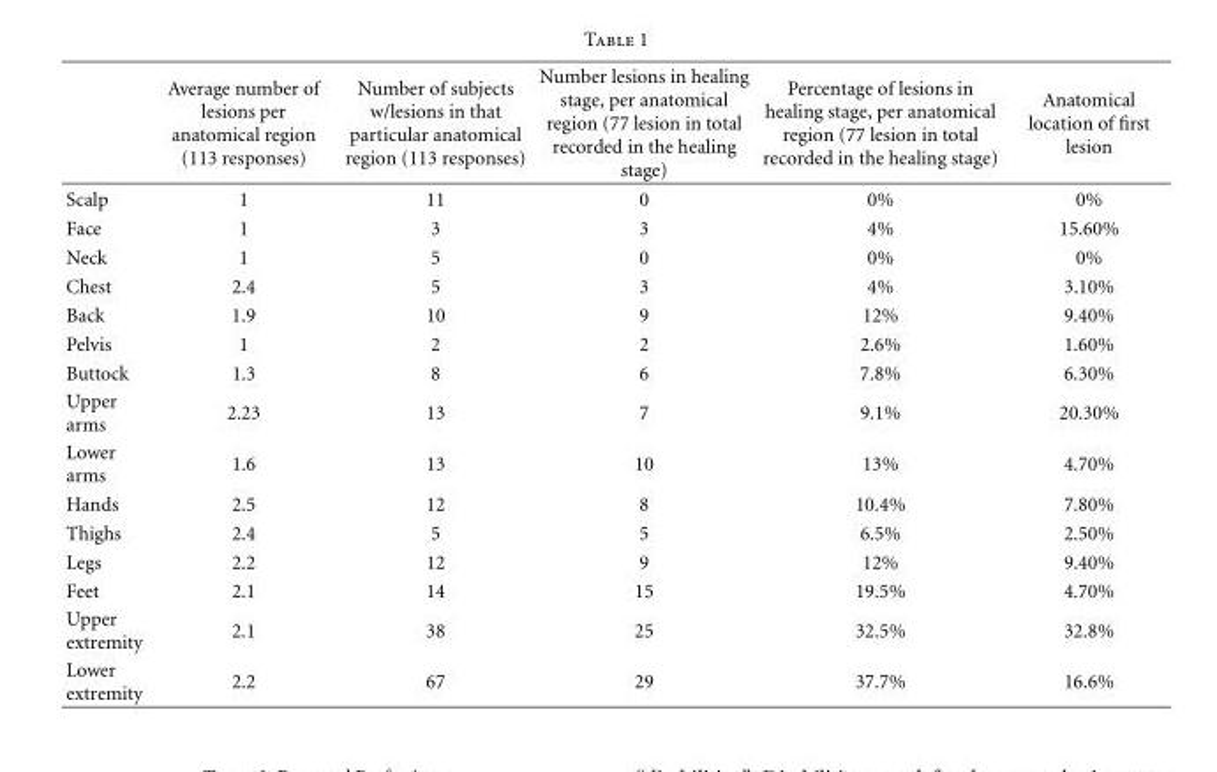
<table><thead><tr><td></td><td>Average number of lesions per anatomical region (113 responses)</td><td>Number of subjects w/lesions in that particular anatomical region (113 responses)</td><td>Number lesions in healing stage, per anatomical region (77 lesion in total recorded in the healing stage)</td><td>Percentage of lesions in healing stage, per anatomical region (77 lesion in total recorded in the healing stage)</td><td>Anatomical location of first lesion</td></tr></thead><tbody><tr><td>Scalp</td><td>1</td><td>11</td><td>0</td><td>0%</td><td>0%</td></tr><tr><td>Face</td><td>1</td><td>3</td><td>3</td><td>4%</td><td>15.60%</td></tr><tr><td>Neck</td><td>1</td><td>5</td><td>0</td><td>0%</td><td>0%</td></tr><tr><td>Chest</td><td>2.4</td><td>5</td><td>3</td><td>4%</td><td>3.10%</td></tr><tr><td>Back</td><td>1.9</td><td>10</td><td>9</td><td>12%</td><td>9.40%</td></tr><tr><td>Pelvis</td><td>1</td><td>2</td><td>2</td><td>2.6%</td><td>1.60%</td></tr><tr><td>Buttock</td><td>1.3</td><td>8</td><td>6</td><td>7.8%</td><td>6.30%</td></tr><tr><td>Upper arms</td><td>2.23</td><td>13</td><td>7</td><td>9.1%</td><td>20.30%</td></tr><tr><td>Lower arms</td><td>1.6</td><td>13</td><td>10</td><td>13%</td><td>4.70%</td></tr><tr><td>Hands</td><td>2.5</td><td>12</td><td>8</td><td>10.4%</td><td>7.80%</td></tr><tr><td>Thighs</td><td>2.4</td><td>5</td><td>5</td><td>6.5%</td><td>2.50%</td></tr><tr><td>Legs</td><td>2.2</td><td>12</td><td>9</td><td>12%</td><td>9.40%</td></tr><tr><td>Feet</td><td>2.1</td><td>14</td><td>15</td><td>19.5%</td><td>4.70%</td></tr><tr><td>Upper extremity</td><td>2.1</td><td>38</td><td>25</td><td>32.5%</td><td>32.8%</td></tr><tr><td>Lower extremity</td><td>2.2</td><td>67</td><td>29</td><td>37.7%</td><td>16.6%</td></tr></tbody></table>